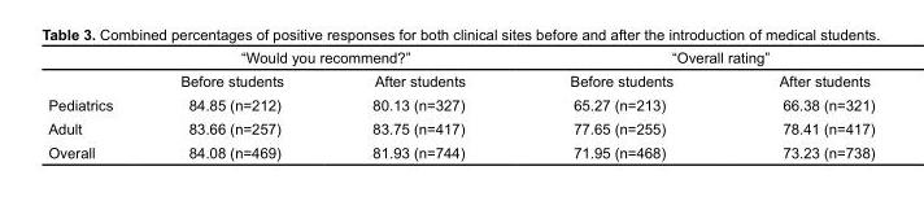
<table><thead><tr><td rowspan="2"></td><td colspan="2">“Would you recommend?”</td><td colspan="2">“Overall rating”</td></tr><tr><td>Before students</td><td>After students</td><td>Before students</td><td>After students</td></tr></thead><tbody><tr><td>Pediatrics</td><td>84.85 (n=212)</td><td>80.13 (n=327)</td><td>65.27 (n=213)</td><td>66.38 (n=321)</td></tr><tr><td>Adult</td><td>83.66 (n=257)</td><td>83.75 (n=417)</td><td>77.65 (n=255)</td><td>78.41 (n=417)</td></tr><tr><td>Overall</td><td>84.08 (n=469)</td><td>81.93 (n=744)</td><td>71.95 (n=468)</td><td>73.23 (n=738)</td></tr></tbody></table>